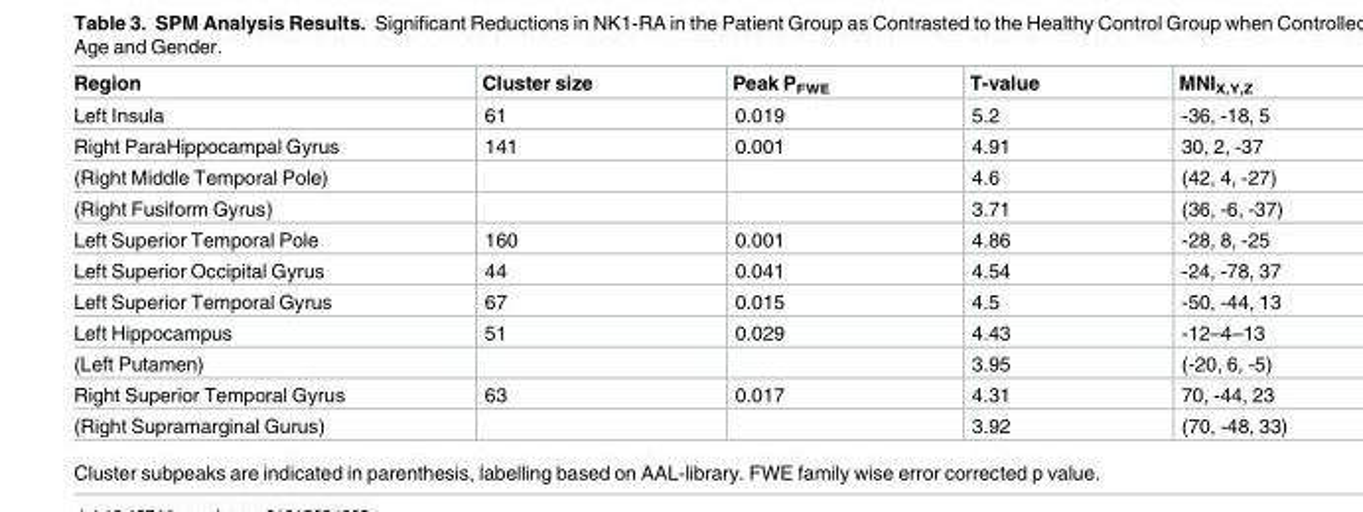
<table><thead><tr><td>Region</td><td>Cluster size</td><td>Peak P<sub>FWE</sub></td><td>T-value</td><td>MNI<sub>X,Y,Z</sub></td></tr></thead><tbody><tr><td>Left Insula</td><td>61</td><td>0.019</td><td>5.2</td><td>-36, -18, 5</td></tr><tr><td>Right ParaHippocampal Gyrus</td><td>141</td><td>0.001</td><td>4.91</td><td>30, 2, -37</td></tr><tr><td>(Right Middle Temporal Pole)</td><td></td><td></td><td>4.6</td><td>(42, 4, -27)</td></tr><tr><td>(Right Fusiform Gyrus)</td><td></td><td></td><td>3.71</td><td>(36, -6, -37)</td></tr><tr><td>Left Superior Temporal Pole</td><td>160</td><td>0.001</td><td>4.86</td><td>-28, 8, -25</td></tr><tr><td>Left Superior Occipital Gyrus</td><td>44</td><td>0.041</td><td>4.54</td><td>-24, -78, 37</td></tr><tr><td>Left Superior Temporal Gyrus</td><td>67</td><td>0.015</td><td>4.5</td><td>-50, -44, 13</td></tr><tr><td>Left Hippocampus</td><td>51</td><td>0.029</td><td>4.43</td><td>-12–4–13</td></tr><tr><td>(Left Putamen)</td><td></td><td></td><td>3.95</td><td>(-20, 6, -5)</td></tr><tr><td>Right Superior Temporal Gyrus</td><td>63</td><td>0.017</td><td>4.31</td><td>70, -44, 23</td></tr><tr><td>(Right Supramarginal Gurus)</td><td></td><td></td><td>3.92</td><td>(70, -48, 33)</td></tr></tbody></table>